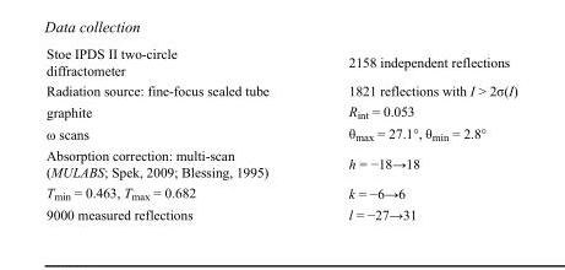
<table><tbody><tr><td>Stoe IPDS II two-circle diffractometer</td><td>2158 independent reflections</td></tr><tr><td>Radiation source: fine-focus sealed tube</td><td>1821 reflections with I &gt; 2σ(I)</td></tr><tr><td>graphite</td><td>R<sub>int</sub> = 0.053</td></tr><tr><td>ω scans</td><td>θ<sub>max</sub> = 27.1°, θ<sub>min</sub> = 2.8°</td></tr><tr><td>Absorption correction: multi-scan (MULABS; Spek, 2009; Blessing, 1995)</td><td>h = −18→18</td></tr><tr><td>T<sub>min</sub> = 0.463, T<sub>max</sub> = 0.682</td><td>k = −6→6</td></tr><tr><td>9000 measured reflections</td><td>l = −27→31</td></tr></tbody></table>